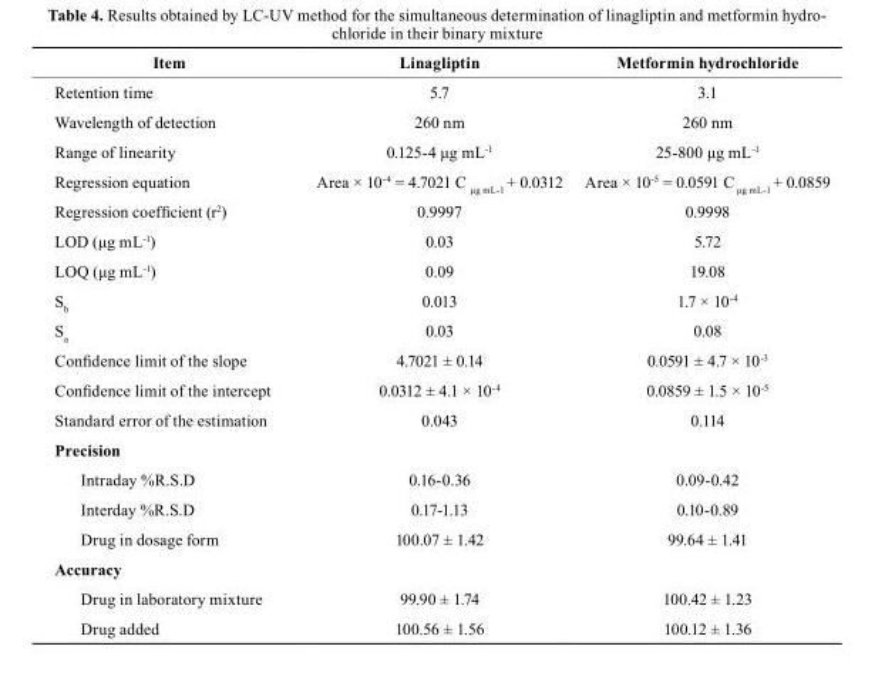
<table><thead><tr><td>Item</td><td>Linagliptin</td><td>Metformin hydrochloride</td></tr></thead><tbody><tr><td>Retention time</td><td>5.7</td><td>3.1</td></tr><tr><td>Wavelength of detection</td><td>260 nm</td><td>260 nm</td></tr><tr><td>Range of linearity</td><td>0.125-4 μg mL<sup>-1</sup></td><td>25-800 μg mL<sup>-1</sup></td></tr><tr><td>Regression equation</td><td>Area × 10<sup>-4</sup> = 4.7021 C <sub>μg mL</sub><sup><sub>-1</sub></sup> + 0.0312</td><td>Area × 10<sup>-5</sup> = 0.0591 C <sub>μg mL</sub><sup><sub>-1</sub></sup> + 0.0859</td></tr><tr><td>Regression coefficient (r<sup>2</sup>)</td><td>0.9997</td><td>0.9998</td></tr><tr><td>LOD (μg mL<sup>-1</sup>)</td><td>0.03</td><td>5.72</td></tr><tr><td>LOQ (μg mL<sup>-1</sup>)</td><td>0.09</td><td>19.08</td></tr><tr><td>S<sub>b</sub></td><td>0.013</td><td>1.7 × 10<sup>-4</sup></td></tr><tr><td>S<sub>a</sub></td><td>0.03</td><td>0.08</td></tr><tr><td>Confidence limit of the slope</td><td>4.7021 ± 0.14</td><td>0.0591 ± 4.7 × 10<sup>-3</sup></td></tr><tr><td>Confidence limit of the intercept</td><td>0.0312 ± 4.1 × 10<sup>-4</sup></td><td>0.0859 ± 1.5 × 10<sup>-5</sup></td></tr><tr><td>Standard error of the estimation</td><td>0.043</td><td>0.114</td></tr><tr><td colspan="3">Precision</td></tr><tr><td>Intraday %R.S.D</td><td>0.16-0.36</td><td>0.09-0.42</td></tr><tr><td>Interday %R.S.D</td><td>0.17-1.13</td><td>0.10-0.89</td></tr><tr><td>Drug in dosage form</td><td>100.07 ± 1.42</td><td>99.64 ± 1.41</td></tr><tr><td colspan="3">Accuracy</td></tr><tr><td>Drug in laboratory mixture</td><td>99.90 ± 1.74</td><td>100.42 ± 1.23</td></tr><tr><td>Drug added</td><td>100.56 ± 1.56</td><td>100.12 ± 1.36</td></tr></tbody></table>